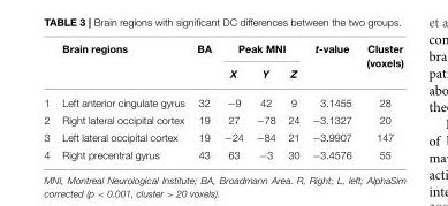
<table><thead><tr><td rowspan="2"></td><td rowspan="2">Brain regions</td><td rowspan="2">BA</td><td colspan="3">Peak MNI</td><td rowspan="2">t-value</td><td rowspan="2">Cluster (voxels)</td></tr><tr><td>X</td><td>Y</td><td>Z</td></tr></thead><tbody><tr><td>1</td><td>Left anterior cingulate gyrus</td><td>32</td><td>−9</td><td>42</td><td>9</td><td>3.1455</td><td>28</td></tr><tr><td>2</td><td>Right lateral occipital cortex</td><td>19</td><td>27</td><td>−78</td><td>24</td><td>−3.1327</td><td>20</td></tr><tr><td>3</td><td>Left lateral occipital cortex</td><td>19</td><td>−24</td><td>−84</td><td>21</td><td>−3.9907</td><td>147</td></tr><tr><td>4</td><td>Right precentral gyrus</td><td>43</td><td>63</td><td>−3</td><td>30</td><td>−3.4576</td><td>55</td></tr></tbody></table>